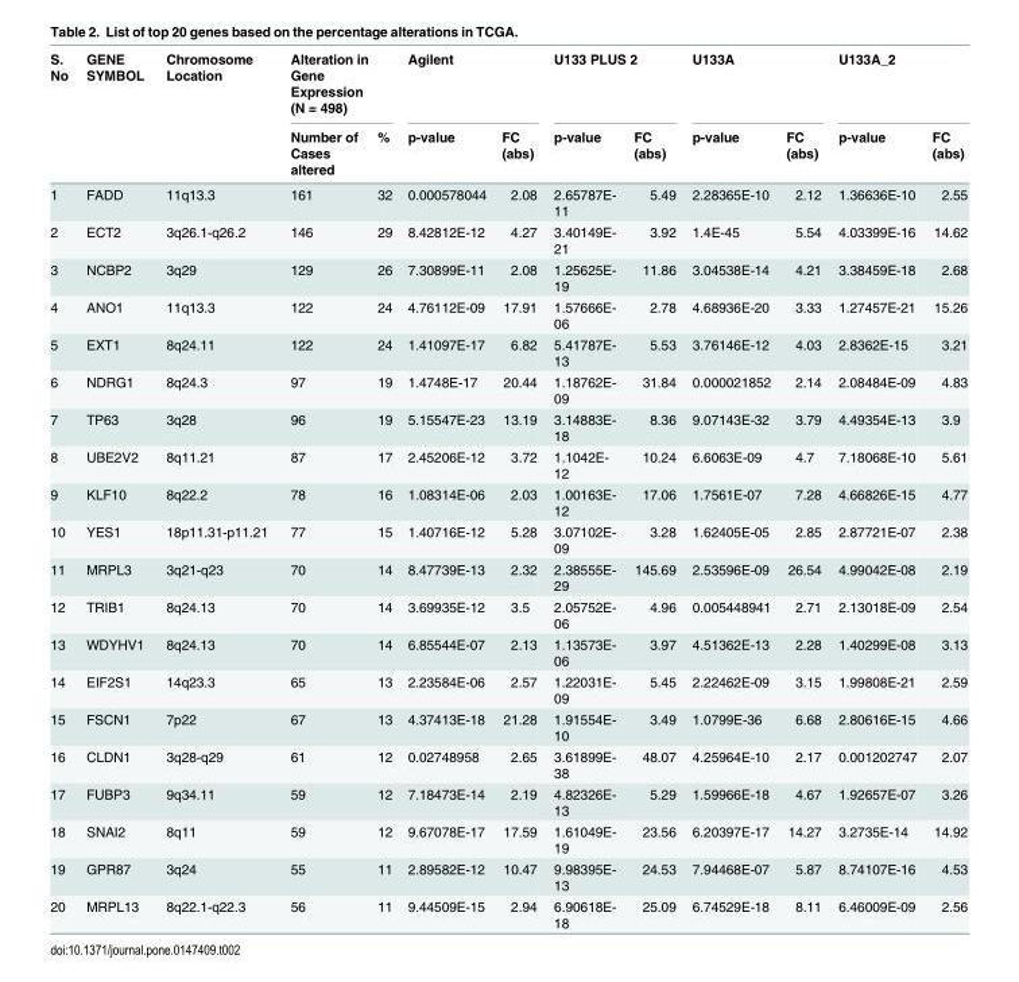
<table><thead><tr><td rowspan="2">S. No</td><td rowspan="2">GENE SYMBOL</td><td rowspan="2">Chromosome Location</td><td colspan="2">Alteration in Gene Expression (N = 498)</td><td colspan="2">Agilent</td><td colspan="2">U133 PLUS 2</td><td colspan="2">U133A</td><td colspan="2">U133A_2</td></tr><tr><td>Number of Cases altered</td><td>%</td><td>p-value</td><td>FC (abs)</td><td>p-value</td><td>FC (abs)</td><td>p-value</td><td>FC (abs)</td><td>p-value</td><td>FC (abs)</td></tr></thead><tbody><tr><td>1</td><td>FADD</td><td>11q13.3</td><td>161</td><td>32</td><td>0.000578044</td><td>2.08</td><td>2.65787E- 11</td><td>5.49</td><td>2.28365E-10</td><td>2.12</td><td>1.36636E-10</td><td>2.55</td></tr><tr><td>2</td><td>ECT2</td><td>3q26.1-q26.2</td><td>146</td><td>29</td><td>8.42812E-12</td><td>4.27</td><td>3.40149E- 21</td><td>3.92</td><td>1.4E-45</td><td>5.54</td><td>4.03399E-16</td><td>14.62</td></tr><tr><td>3</td><td>NCBP2</td><td>3q29</td><td>129</td><td>26</td><td>7.30899E-11</td><td>2.08</td><td>1.25625E- 19</td><td>11.86</td><td>3.04538E-14</td><td>4.21</td><td>3.38459E-18</td><td>2.68</td></tr><tr><td>4</td><td>ANO1</td><td>11q13.3</td><td>122</td><td>24</td><td>4.76112E-09</td><td>17.91</td><td>1.57666E- 06</td><td>2.78</td><td>4.68936E-20</td><td>3.33</td><td>1.27457E-21</td><td>15.26</td></tr><tr><td>5</td><td>EXT1</td><td>8q24.11</td><td>122</td><td>24</td><td>1.41097E-17</td><td>6.82</td><td>5.41787E- 13</td><td>5.53</td><td>3.76146E-12</td><td>4.03</td><td>2.8362E-15</td><td>3.21</td></tr><tr><td>6</td><td>NDRG1</td><td>8q24.3</td><td>97</td><td>19</td><td>1.4748E-17</td><td>20.44</td><td>1.18762E- 09</td><td>31.84</td><td>0.000021852</td><td>2.14</td><td>2.08484E-09</td><td>4.83</td></tr><tr><td>7</td><td>TP63</td><td>3q28</td><td>96</td><td>19</td><td>5.15547E-23</td><td>13.19</td><td>3.14883E- 18</td><td>8.36</td><td>9.07143E-32</td><td>3.79</td><td>4.49354E-13</td><td>3.9</td></tr><tr><td>8</td><td>UBE2V2</td><td>8q11.21</td><td>87</td><td>17</td><td>2.45206E-12</td><td>3.72</td><td>1.1042E- 12</td><td>10.24</td><td>6.6063E-09</td><td>4.7</td><td>7.18068E-10</td><td>5.61</td></tr><tr><td>9</td><td>KLF10</td><td>8q22.2</td><td>78</td><td>16</td><td>1.08314E-06</td><td>2.03</td><td>1.00163E- 12</td><td>17.06</td><td>1.7561E-07</td><td>7.28</td><td>4.66826E-15</td><td>4.77</td></tr><tr><td>10</td><td>YES1</td><td>18p11.31-p11.21</td><td>77</td><td>15</td><td>1.40716E-12</td><td>5.28</td><td>3.07102E- 09</td><td>3.28</td><td>1.62405E-05</td><td>2.85</td><td>2.87721E-07</td><td>2.38</td></tr><tr><td>11</td><td>MRPL3</td><td>3q21-q23</td><td>70</td><td>14</td><td>8.47739E-13</td><td>2.32</td><td>2.38555E- 29</td><td>145.69</td><td>2.53596E-09</td><td>26.54</td><td>4.99042E-08</td><td>2.19</td></tr><tr><td>12</td><td>TRIB1</td><td>8q24.13</td><td>70</td><td>14</td><td>3.69935E-12</td><td>3.5</td><td>2.05752E- 06</td><td>4.96</td><td>0.005448941</td><td>2.71</td><td>2.13018E-09</td><td>2.54</td></tr><tr><td>13</td><td>WDYHV1</td><td>8q24.13</td><td>70</td><td>14</td><td>6.85544E-07</td><td>2.13</td><td>1.13573E- 06</td><td>3.97</td><td>4.51362E-13</td><td>2.28</td><td>1.40299E-08</td><td>3.13</td></tr><tr><td>14</td><td>EIF2S1</td><td>14q23.3</td><td>65</td><td>13</td><td>2.23584E-06</td><td>2.57</td><td>1.22031E- 09</td><td>5.45</td><td>2.22462E-09</td><td>3.15</td><td>1.99808E-21</td><td>2.59</td></tr><tr><td>15</td><td>FSCN1</td><td>7p22</td><td>67</td><td>13</td><td>4.37413E-18</td><td>21.28</td><td>1.91554E- 10</td><td>3.49</td><td>1.0799E-36</td><td>6.68</td><td>2.80616E-15</td><td>4.66</td></tr><tr><td>16</td><td>CLDN1</td><td>3q28-q29</td><td>61</td><td>12</td><td>0.02748958</td><td>2.65</td><td>3.61899E- 38</td><td>48.07</td><td>4.25964E-10</td><td>2.17</td><td>0.001202747</td><td>2.07</td></tr><tr><td>17</td><td>FUBP3</td><td>9q34.11</td><td>59</td><td>12</td><td>7.18473E-14</td><td>2.19</td><td>4.82326E- 13</td><td>5.29</td><td>1.59966E-18</td><td>4.67</td><td>1.92657E-07</td><td>3.26</td></tr><tr><td>18</td><td>SNAI2</td><td>8q11</td><td>59</td><td>12</td><td>9.67078E-17</td><td>17.59</td><td>1.61049E- 19</td><td>23.56</td><td>6.20397E-17</td><td>14.27</td><td>3.2735E-14</td><td>14.92</td></tr><tr><td>19</td><td>GPR87</td><td>3q24</td><td>55</td><td>11</td><td>2.89582E-12</td><td>10.47</td><td>9.98395E- 13</td><td>24.53</td><td>7.94468E-07</td><td>5.87</td><td>8.74107E-16</td><td>4.53</td></tr><tr><td>20</td><td>MRPL13</td><td>8q22.1-q22.3</td><td>56</td><td>11</td><td>9.44509E-15</td><td>2.94</td><td>6.90618E- 18</td><td>25.09</td><td>6.74529E-18</td><td>8.11</td><td>6.46009E-09</td><td>2.56</td></tr></tbody></table>